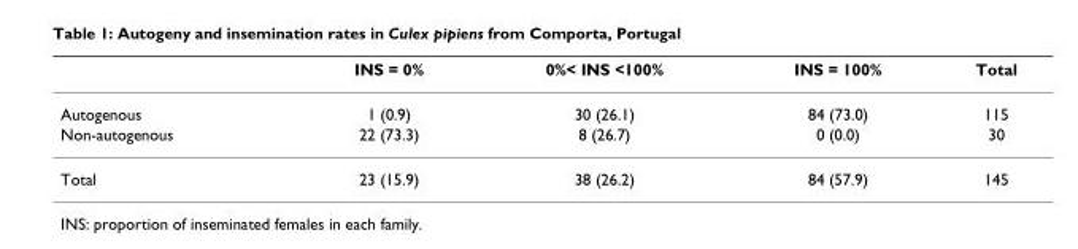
<table><thead><tr><td></td><td>INS = 0%</td><td>0%&lt; INS &lt;100%</td><td>INS = 100%</td><td>Total</td></tr></thead><tbody><tr><td>Autogenous</td><td>1 (0.9)</td><td>30 (26.1)</td><td>84 (73.0)</td><td>115</td></tr><tr><td>Non-autogenous</td><td>22 (73.3)</td><td>8 (26.7)</td><td>0 (0.0)</td><td>30</td></tr><tr><td>Total</td><td>23 (15.9)</td><td>38 (26.2)</td><td>84 (57.9)</td><td>145</td></tr></tbody></table>